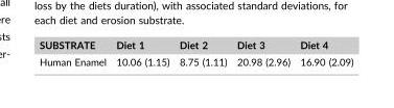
<table><thead><tr><td>SUBSTRATE</td><td>Diet 1</td><td>Diet 2</td><td>Diet 3</td><td>Diet 4</td></tr></thead><tbody><tr><td>Human Enamel</td><td>10.06 (1.15)</td><td>8.75 (1.11)</td><td>20.98 (2.96)</td><td>16.90 (2.09)</td></tr></tbody></table>